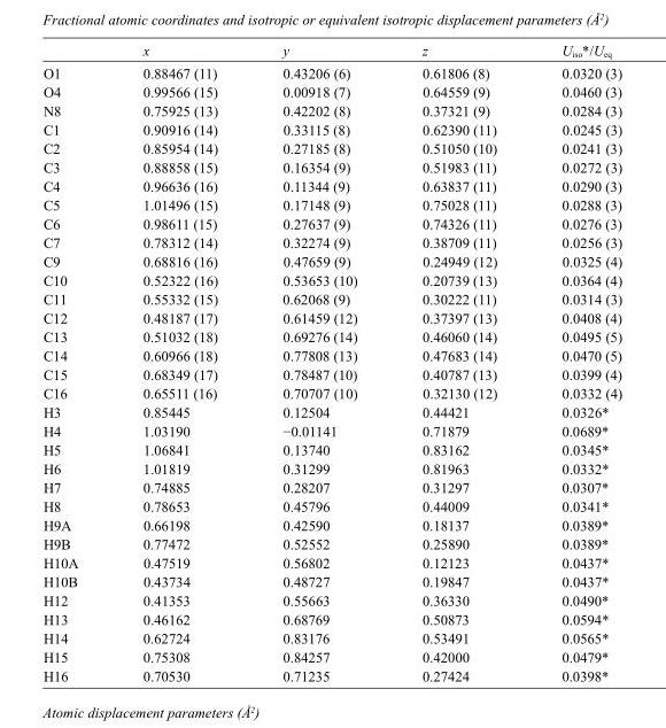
<table><thead><tr><td></td><td>x</td><td>y</td><td>z</td><td>U<sub>iso</sub>*/U<sub>eq</sub></td></tr></thead><tbody><tr><td>O1</td><td>0.88467 (11)</td><td>0.43206 (6)</td><td>0.61806 (8)</td><td>0.0320 (3)</td></tr><tr><td>O4</td><td>0.99566 (15)</td><td>0.00918 (7)</td><td>0.64559 (9)</td><td>0.0460 (3)</td></tr><tr><td>N8</td><td>0.75925 (13)</td><td>0.42202 (8)</td><td>0.37321 (9)</td><td>0.0284 (3)</td></tr><tr><td>C1</td><td>0.90916 (14)</td><td>0.33115 (8)</td><td>0.62390 (11)</td><td>0.0245 (3)</td></tr><tr><td>C2</td><td>0.85954 (14)</td><td>0.27185 (8)</td><td>0.51050 (10)</td><td>0.0241 (3)</td></tr><tr><td>C3</td><td>0.88858 (15)</td><td>0.16354 (9)</td><td>0.51983 (11)</td><td>0.0272 (3)</td></tr><tr><td>C4</td><td>0.96636 (16)</td><td>0.11344 (9)</td><td>0.63837 (11)</td><td>0.0290 (3)</td></tr><tr><td>C5</td><td>1.01496 (15)</td><td>0.17148 (9)</td><td>0.75028 (11)</td><td>0.0288 (3)</td></tr><tr><td>C6</td><td>0.98611 (15)</td><td>0.27637 (9)</td><td>0.74326 (11)</td><td>0.0276 (3)</td></tr><tr><td>C7</td><td>0.78312 (14)</td><td>0.32274 (9)</td><td>0.38709 (11)</td><td>0.0256 (3)</td></tr><tr><td>C9</td><td>0.68816 (16)</td><td>0.47659 (9)</td><td>0.24949 (12)</td><td>0.0325 (4)</td></tr><tr><td>C10</td><td>0.52322 (16)</td><td>0.53653 (10)</td><td>0.20739 (13)</td><td>0.0364 (4)</td></tr><tr><td>C11</td><td>0.55332 (15)</td><td>0.62068 (9)</td><td>0.30222 (11)</td><td>0.0314 (3)</td></tr><tr><td>C12</td><td>0.48187 (17)</td><td>0.61459 (12)</td><td>0.37397 (13)</td><td>0.0408 (4)</td></tr><tr><td>C13</td><td>0.51032 (18)</td><td>0.69276 (14)</td><td>0.46060 (14)</td><td>0.0495 (5)</td></tr><tr><td>C14</td><td>0.60966 (18)</td><td>0.77808 (13)</td><td>0.47683 (14)</td><td>0.0470 (5)</td></tr><tr><td>C15</td><td>0.68349 (17)</td><td>0.78487 (10)</td><td>0.40787 (13)</td><td>0.0399 (4)</td></tr><tr><td>C16</td><td>0.65511 (16)</td><td>0.70707 (10)</td><td>0.32130 (12)</td><td>0.0332 (4)</td></tr><tr><td>H3</td><td>0.85445</td><td>0.12504</td><td>0.44421</td><td>0.0326*</td></tr><tr><td>H4</td><td>1.03190</td><td>−0.01141</td><td>0.71879</td><td>0.0689*</td></tr><tr><td>H5</td><td>1.06841</td><td>0.13740</td><td>0.83162</td><td>0.0345*</td></tr><tr><td>H6</td><td>1.01819</td><td>0.31299</td><td>0.81963</td><td>0.0332*</td></tr><tr><td>H7</td><td>0.74885</td><td>0.28207</td><td>0.31297</td><td>0.0307*</td></tr><tr><td>H8</td><td>0.78653</td><td>0.45796</td><td>0.44009</td><td>0.0341*</td></tr><tr><td>H9A</td><td>0.66198</td><td>0.42590</td><td>0.18137</td><td>0.0389*</td></tr><tr><td>H9B</td><td>0.77472</td><td>0.52552</td><td>0.25890</td><td>0.0389*</td></tr><tr><td>H10A</td><td>0.47519</td><td>0.56802</td><td>0.12123</td><td>0.0437*</td></tr><tr><td>H10B</td><td>0.43734</td><td>0.48727</td><td>0.19847</td><td>0.0437*</td></tr><tr><td>H12</td><td>0.41353</td><td>0.55663</td><td>0.36330</td><td>0.0490*</td></tr><tr><td>H13</td><td>0.46162</td><td>0.68769</td><td>0.50873</td><td>0.0594*</td></tr><tr><td>H14</td><td>0.62724</td><td>0.83176</td><td>0.53491</td><td>0.0565*</td></tr><tr><td>H15</td><td>0.75308</td><td>0.84257</td><td>0.42000</td><td>0.0479*</td></tr><tr><td>H16</td><td>0.70530</td><td>0.71235</td><td>0.27424</td><td>0.0398*</td></tr></tbody></table>